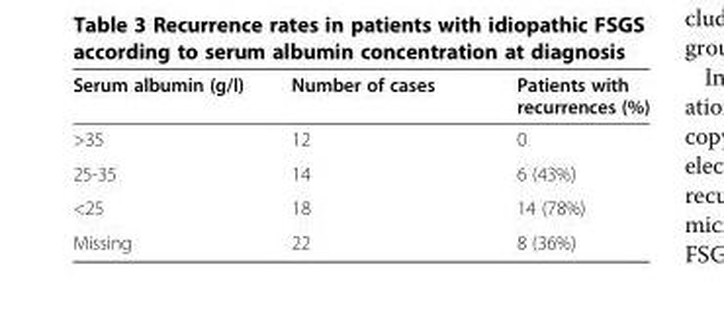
<table><thead><tr><td>Serum albumin (g/l)</td><td>Number of cases</td><td>Patients with recurrences (%)</td></tr></thead><tbody><tr><td>&gt;35</td><td>12</td><td>0</td></tr><tr><td>25-35</td><td>14</td><td>6 (43%)</td></tr><tr><td>&lt;25</td><td>18</td><td>14 (78%)</td></tr><tr><td>Missing</td><td>22</td><td>8 (36%)</td></tr></tbody></table>